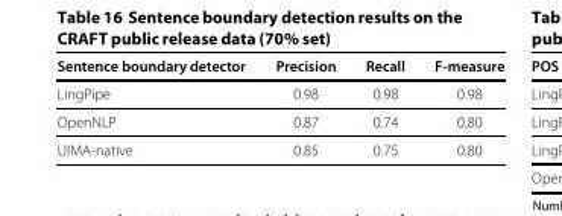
<table><thead><tr><td>Sentence boundary detector</td><td>Precision</td><td>Recall</td><td>F-measure</td></tr></thead><tbody><tr><td>LingPipe</td><td>0.98</td><td>0.98</td><td>0.98</td></tr><tr><td>OpenNLP</td><td>0.87</td><td>0.74</td><td>0.80</td></tr><tr><td>UIMA-native</td><td>0.85</td><td>0.75</td><td>0.80</td></tr></tbody></table>